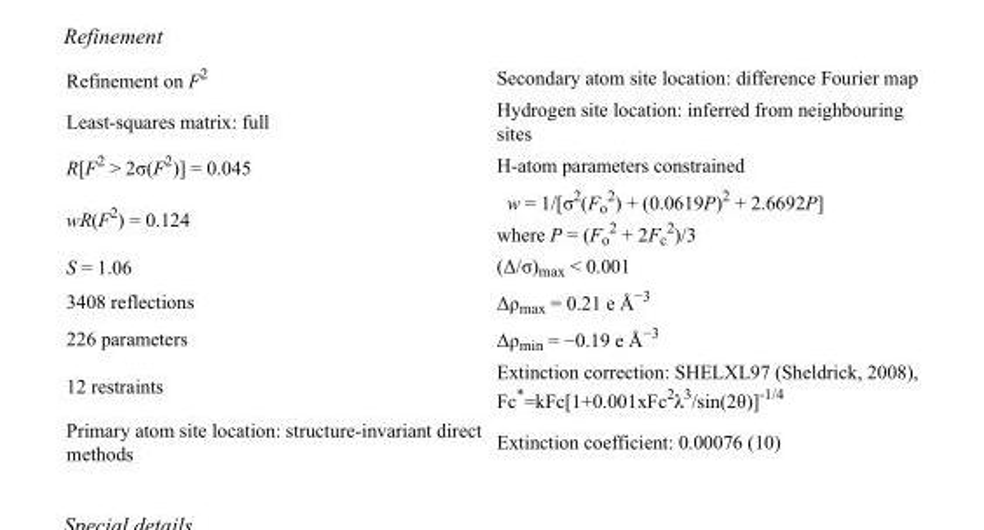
<table><tbody><tr><td>Refinement on F<sup>2</sup></td><td>Secondary atom site location: difference Fourier map</td></tr><tr><td>Least-squares matrix: full</td><td>Hydrogen site location: inferred from neighbouring sites</td></tr><tr><td>R[F<sup>2</sup> &gt; 2σ(F<sup>2</sup>)] = 0.045</td><td>H-atom parameters constrained</td></tr><tr><td>wR(F<sup>2</sup>) = 0.124</td><td>w = 1/[σ<sup>2</sup>(F<sub>o</sub> <sup>2</sup>) + (0.0619P)<sup>2</sup> + 2.6692P] where P = (F<sub>o</sub> <sup>2</sup> + 2F<sub>c</sub> <sup>2</sup>)/3</td></tr><tr><td>S = 1.06</td><td>(Δ/σ)<sub>max</sub> &lt; 0.001</td></tr><tr><td>3408 reflections</td><td>Δρ<sub>max</sub> = 0.21 e Å<sup>−3</sup></td></tr><tr><td>226 parameters</td><td>Δρ<sub>min</sub> = −0.19 e Å<sup>−3</sup></td></tr><tr><td>12 restraints</td><td>Extinction correction: SHELXL97 (Sheldrick, 2008), Fc*=kFc[1+0.001xFc<sup>2</sup>λ<sup>3</sup>/sin(2θ)]<sup>-1/4</sup></td></tr><tr><td>Primary atom site location: structure-invariant direct methods</td><td>Extinction coefficient: 0.00076 (10)</td></tr></tbody></table>